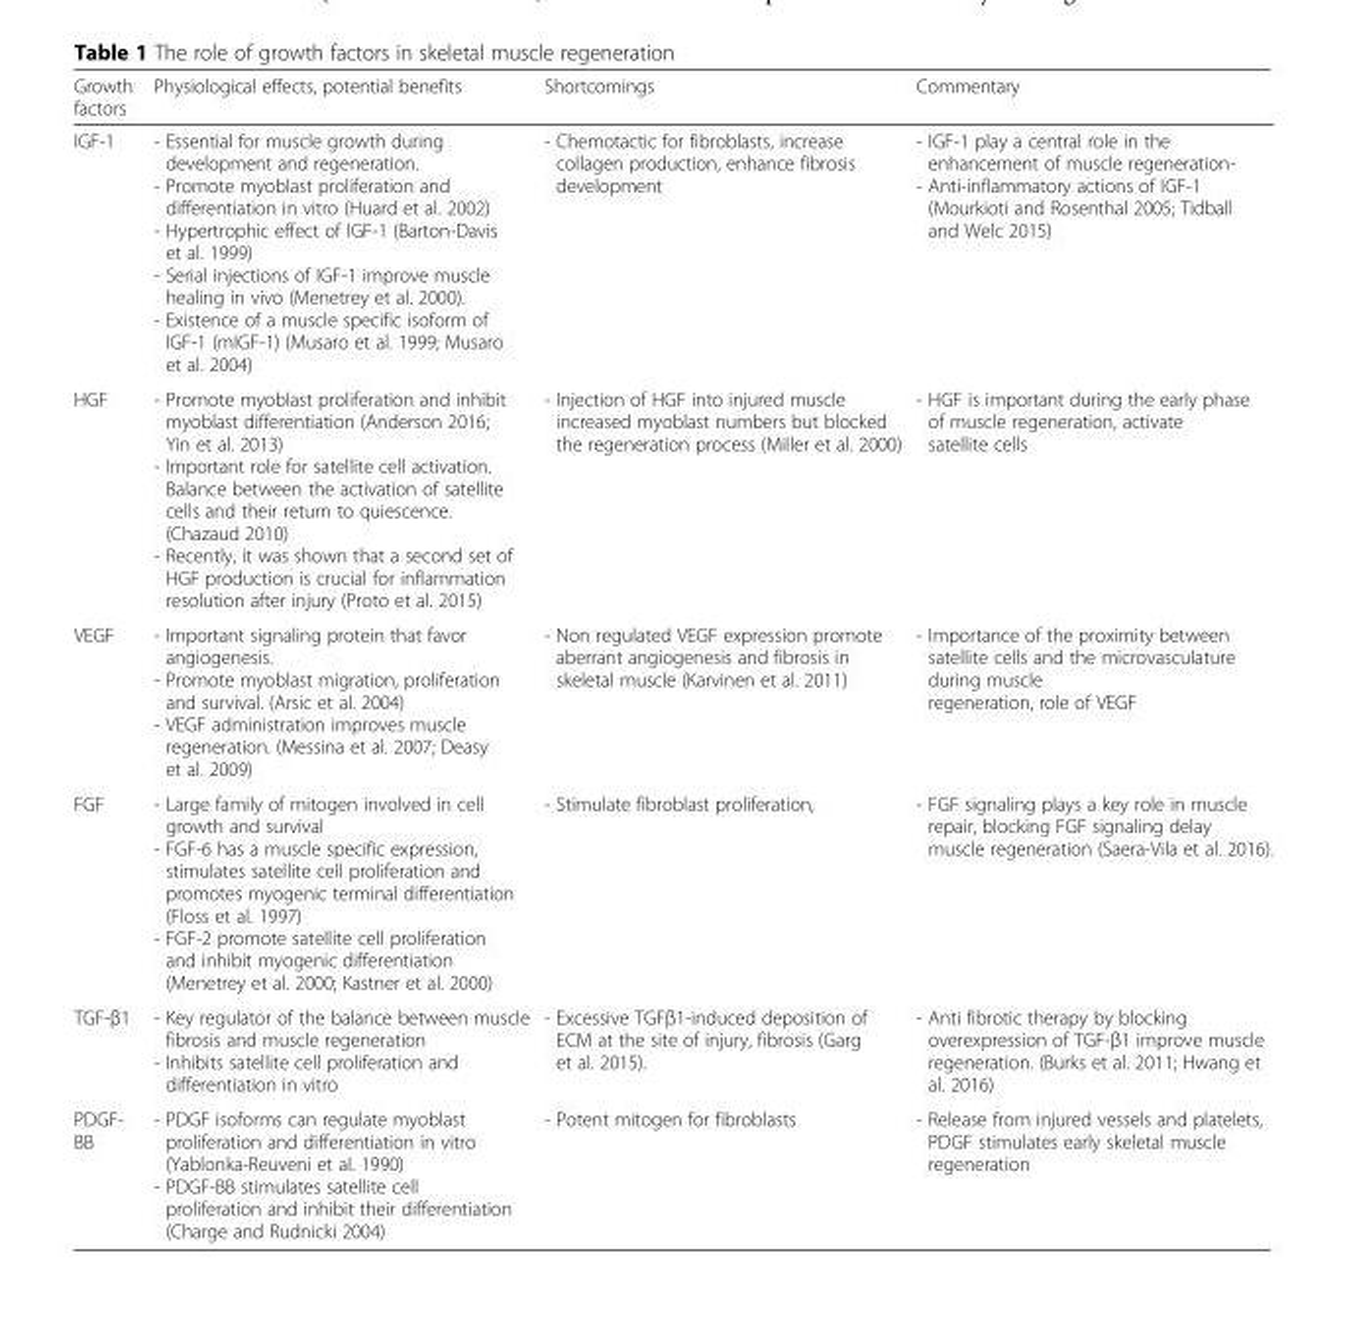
<table><thead><tr><td>Growth factors</td><td>Physiological effects, potential benefits</td><td>Shortcomings</td><td>Commentary</td></tr></thead><tbody><tr><td>IGF-1</td><td>- Essential for muscle growth during development and regeneration. - Promote myoblast proliferation and differentiation in vitro (Huard et al. 2002) - Hypertrophic effect of IGF-1 (Barton-Davis et al. 1999) - Serial injections of IGF-1 improve muscle healing in vivo (Menetrey et al. 2000). - Existence of a muscle specific isoform of IGF-1 (mIGF-1) (Musaro et al. 1999; Musaro et al. 2004)</td><td>- Chemotactic for fibroblasts, increase collagen production, enhance fibrosis development</td><td>- IGF-1 play a central role in the enhancement of muscle regeneration- - Anti-inflammatory actions of IGF-1 (Mourkioti and Rosenthal 2005; Tidball and Welc 2015)</td></tr><tr><td>HGF</td><td>- Promote myoblast proliferation and inhibit myoblast differentiation (Anderson 2016; Yin et al. 2013) - Important role for satellite cell activation. Balance between the activation of satellite cells and their return to quiescence. (Chazaud 2010) - Recently, it was shown that a second set of HGF production is crucial for inflammation resolution after injury (Proto et al. 2015)</td><td>- Injection of HGF into injured muscle increased myoblast numbers but blocked the regeneration process (Miller et al. 2000)</td><td>- HGF is important during the early phase of muscle regeneration, activate satellite cells</td></tr><tr><td>VEGF</td><td>- Important signaling protein that favor angiogenesis. - Promote myoblast migration, proliferation and survival. (Arsic et al. 2004) - VEGF administration improves muscle regeneration. (Messina et al. 2007; Deasy et al. 2009)</td><td>- Non regulated VEGF expression promote aberrant angiogenesis and fibrosis in skeletal muscle (Karvinen et al. 2011)</td><td>- Importance of the proximity between satellite cells and the microvasculature during muscle regeneration, role of VEGF</td></tr><tr><td>FGF</td><td>- Large family of mitogen involved in cell growth and survival - FGF-6 has a muscle specific expression, stimulates satellite cell proliferation and promotes myogenic terminal differentiation (Floss et al. 1997) - FGF-2 promote satellite cell proliferation and inhibit myogenic differentiation (Menetrey et al. 2000; Kastner et al. 2000)</td><td>- Stimulate fibroblast proliferation,</td><td>- FGF signaling plays a key role in muscle repair, blocking FGF signaling delay muscle regeneration (Saera-Vila et al. 2016).</td></tr><tr><td>TGF-β1</td><td>- Key regulator of the balance between muscle fibrosis and muscle regeneration - Inhibits satellite cell proliferation and differentiation in vitro</td><td>- Excessive TGFβ1-induced deposition of ECM at the site of injury, fibrosis (Garg et al. 2015).</td><td>- Anti fibrotic therapy by blocking overexpression of TGF-β1 improve muscle regeneration. (Burks et al. 2011; Hwang et al. 2016)</td></tr><tr><td>PDGF- BB</td><td>- PDGF isoforms can regulate myoblast proliferation and differentiation in vitro (Yablonka-Reuveni et al. 1990) - PDGF-BB stimulates satellite cell proliferation and inhibit their differentiation (Charge and Rudnicki 2004)</td><td>- Potent mitogen for fibroblasts</td><td>- Release from injured vessels and platelets, PDGF stimulates early skeletal muscle regeneration</td></tr></tbody></table>